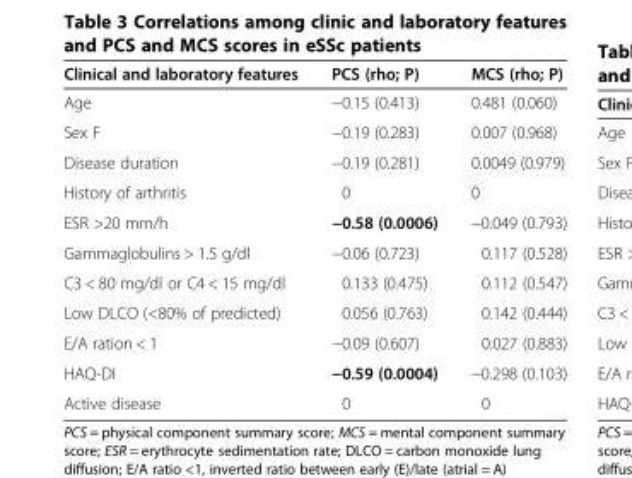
<table><thead><tr><td>Clinical and laboratory features</td><td>PCS (rho; P)</td><td>MCS (rho; P)</td></tr></thead><tbody><tr><td>Age</td><td>−0.15 (0.413)</td><td>0.481 (0.060)</td></tr><tr><td>Sex F</td><td>−0.19 (0.283)</td><td>0.007 (0.968)</td></tr><tr><td>Disease duration</td><td>−0.19 (0.281)</td><td>0.0049 (0.979)</td></tr><tr><td>History of arthritis</td><td>0</td><td>0</td></tr><tr><td>ESR &gt;20 mm/h</td><td>−0.58 (0.0006)</td><td>−0.049 (0.793)</td></tr><tr><td>Gammaglobulins &gt; 1.5 g/dl</td><td>−0.06 (0.723)</td><td>0.117 (0.528)</td></tr><tr><td>C3 &lt; 80 mg/dl or C4 &lt; 15 mg/dl</td><td>0.133 (0.475)</td><td>0.112 (0.547)</td></tr><tr><td>Low DLCO (&lt;80% of predicted)</td><td>0.056 (0.763)</td><td>0.142 (0.444)</td></tr><tr><td>E/A ration &lt; 1</td><td>−0.09 (0.607)</td><td>0.027 (0.883)</td></tr><tr><td>HAQ-DI</td><td>−0.59 (0.0004)</td><td>−0.298 (0.103)</td></tr><tr><td>Active disease</td><td>0</td><td>0</td></tr></tbody></table>